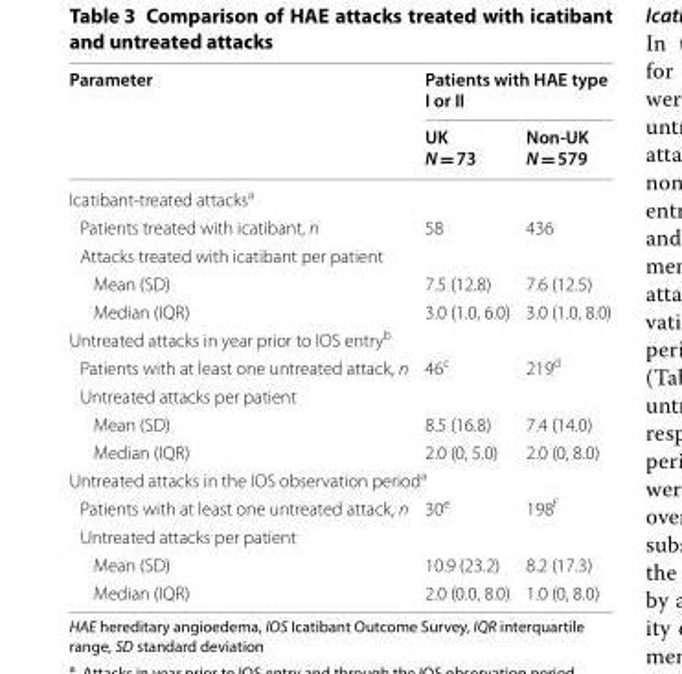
<table><thead><tr><td rowspan="2">Parameter</td><td colspan="2">Patients with HAE type I or II</td></tr><tr><td>UK N = 73</td><td>Non-UK N = 579</td></tr></thead><tbody><tr><td colspan="3">Icatibant-treated attacks<sup>a</sup></td></tr><tr><td>Patients treated with icatibant, n</td><td>58</td><td>436</td></tr><tr><td colspan="3">Attacks treated with icatibant per patient</td></tr><tr><td>Mean (SD)</td><td>7.5 (12.8)</td><td>7.6 (12.5)</td></tr><tr><td>Median (IQR)</td><td>3.0 (1.0, 6.0)</td><td>3.0 (1.0, 8.0)</td></tr><tr><td colspan="3">Untreated attacks in year prior to IOS entry<sup>b</sup></td></tr><tr><td>Patients with at least one untreated attack, n</td><td>46<sup>c</sup></td><td>219<sup>d</sup></td></tr><tr><td colspan="3">Untreated attacks per patient</td></tr><tr><td>Mean (SD)</td><td>8.5 (16.8)</td><td>7.4 (14.0)</td></tr><tr><td>Median (IQR)</td><td>2.0 (0, 5.0)</td><td>2.0 (0, 8.0)</td></tr><tr><td colspan="3">Untreated attacks in the IOS observation period<sup>a</sup></td></tr><tr><td>Patients with at least one untreated attack, n</td><td>30<sup>e</sup></td><td>198<sup>f</sup></td></tr><tr><td colspan="3">Untreated attacks per patient</td></tr><tr><td>Mean (SD)</td><td>10.9 (23.2)</td><td>8.2 (17.3)</td></tr><tr><td>Median (IQR)</td><td>2.0 (0.0, 8.0)</td><td>1.0 (0, 8.0)</td></tr></tbody></table>